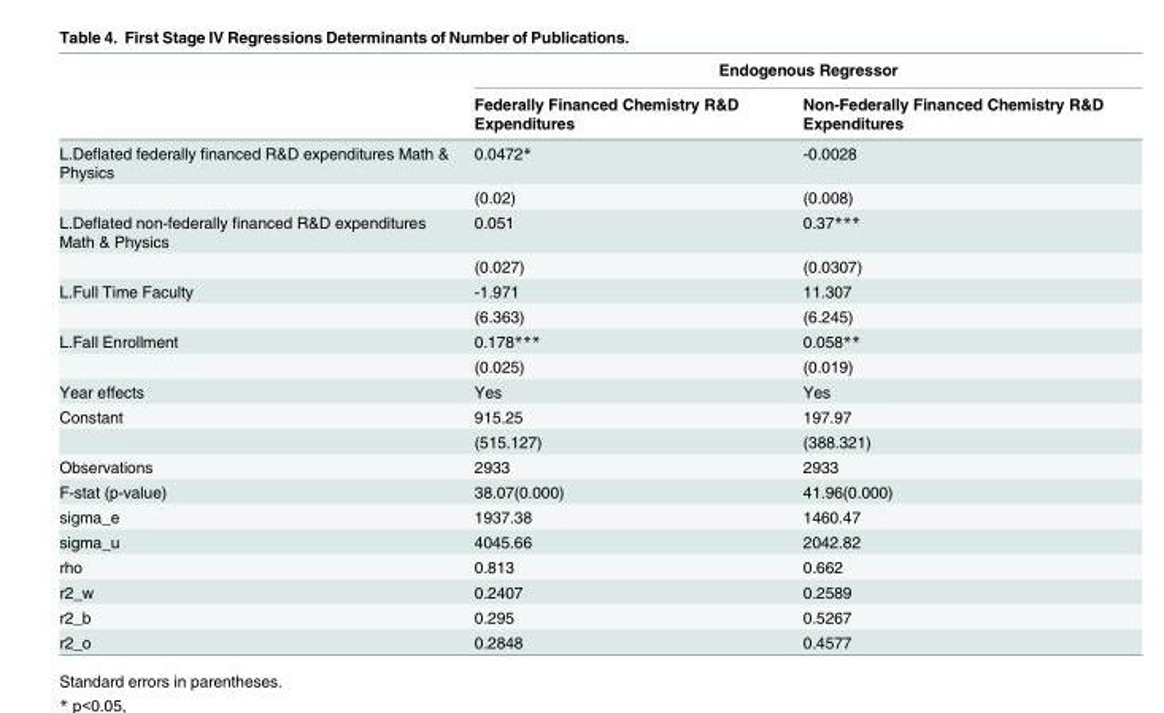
<table><thead><tr><td rowspan="2"></td><td colspan="2">Endogenous Regressor</td></tr><tr><td>Federally Financed Chemistry R&amp;D Expenditures</td><td>Non-Federally Financed Chemistry R&amp;D Expenditures</td></tr></thead><tbody><tr><td rowspan="2">L.Deflated federally financed R&amp;D expenditures Math &amp; Physics</td><td>0.0472*</td><td>-0.0028</td></tr><tr><td>(0.02)</td><td>(0.008)</td></tr><tr><td rowspan="2">L.Deflated non-federally financed R&amp;D expenditures Math &amp; Physics</td><td>0.051</td><td>0.37***</td></tr><tr><td>(0.027)</td><td>(0.0307)</td></tr><tr><td rowspan="2">L.Full Time Faculty</td><td>-1.971</td><td>11.307</td></tr><tr><td>(6.363)</td><td>(6.245)</td></tr><tr><td rowspan="2">L.Fall Enrollment</td><td>0.178***</td><td>0.058**</td></tr><tr><td>(0.025)</td><td>(0.019)</td></tr><tr><td>Year effects</td><td>Yes</td><td>Yes</td></tr><tr><td rowspan="2">Constant</td><td>915.25</td><td>197.97</td></tr><tr><td>(515.127)</td><td>(388.321)</td></tr><tr><td>Observations</td><td>2933</td><td>2933</td></tr><tr><td>F-stat (p-value)</td><td>38.07(0.000)</td><td>41.96(0.000)</td></tr><tr><td>sigma_e</td><td>1937.38</td><td>1460.47</td></tr><tr><td>sigma_u</td><td>4045.66</td><td>2042.82</td></tr><tr><td>rho</td><td>0.813</td><td>0.662</td></tr><tr><td>r2_w</td><td>0.2407</td><td>0.2589</td></tr><tr><td>r2_b</td><td>0.295</td><td>0.5267</td></tr><tr><td>r2_o</td><td>0.2848</td><td>0.4577</td></tr></tbody></table>